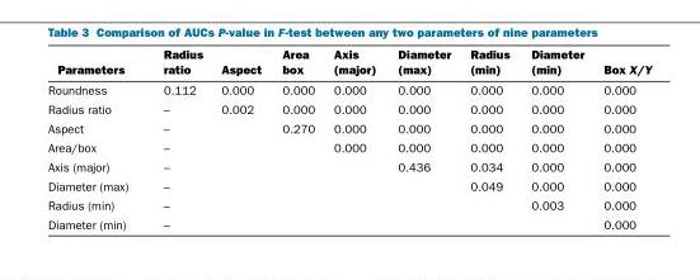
<table><thead><tr><td>Parameters</td><td>Radius ratio</td><td>Aspect</td><td>Area box</td><td>Axis (major)</td><td>Diameter (max)</td><td>Radius (min)</td><td>Diameter (min)</td><td>Box X/Y</td></tr></thead><tbody><tr><td>Roundness</td><td>0.112</td><td>0.000</td><td>0.000</td><td>0.000</td><td>0.000</td><td>0.000</td><td>0.000</td><td>0.000</td></tr><tr><td>Radius ratio</td><td>–</td><td>0.002</td><td>0.000</td><td>0.000</td><td>0.000</td><td>0.000</td><td>0.000</td><td>0.000</td></tr><tr><td>Aspect</td><td>–</td><td></td><td>0.270</td><td>0.000</td><td>0.000</td><td>0.000</td><td>0.000</td><td>0.000</td></tr><tr><td>Area/box</td><td>–</td><td></td><td></td><td>0.000</td><td>0.000</td><td>0.000</td><td>0.000</td><td>0.000</td></tr><tr><td>Axis (major)</td><td>–</td><td></td><td></td><td></td><td>0.436</td><td>0.034</td><td>0.000</td><td>0.000</td></tr><tr><td>Diameter (max)</td><td>–</td><td></td><td></td><td></td><td></td><td>0.049</td><td>0.000</td><td>0.000</td></tr><tr><td>Radius (min)</td><td>–</td><td></td><td></td><td></td><td></td><td></td><td>0.003</td><td>0.000</td></tr><tr><td>Diameter (min)</td><td>–</td><td></td><td></td><td></td><td></td><td></td><td></td><td>0.000</td></tr></tbody></table>